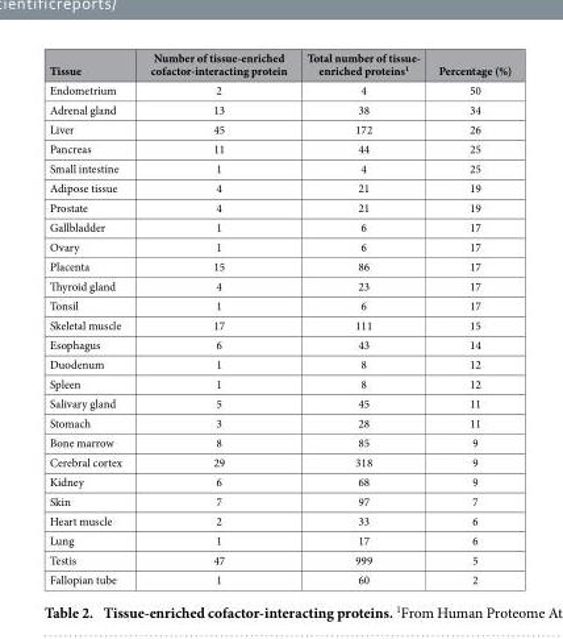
<table><thead><tr><td>Tissue</td><td>Number of tissue-enriched cofactor-interacting protein</td><td>Total number of tissue- enriched proteins<sup>1</sup></td><td>Percentage (%)</td></tr></thead><tbody><tr><td>Endometrium</td><td>2</td><td>4</td><td>50</td></tr><tr><td>Adrenal gland</td><td>13</td><td>38</td><td>34</td></tr><tr><td>Liver</td><td>45</td><td>172</td><td>26</td></tr><tr><td>Pancreas</td><td>11</td><td>44</td><td>25</td></tr><tr><td>Small intestine</td><td>1</td><td>4</td><td>25</td></tr><tr><td>Adipose tissue</td><td>4</td><td>21</td><td>19</td></tr><tr><td>Prostate</td><td>4</td><td>21</td><td>19</td></tr><tr><td>Gallbladder</td><td>1</td><td>6</td><td>17</td></tr><tr><td>Ovary</td><td>1</td><td>6</td><td>17</td></tr><tr><td>Placenta</td><td>15</td><td>86</td><td>17</td></tr><tr><td>Thyroid gland</td><td>4</td><td>23</td><td>17</td></tr><tr><td>Tonsil</td><td>1</td><td>6</td><td>17</td></tr><tr><td>Skeletal muscle</td><td>17</td><td>111</td><td>15</td></tr><tr><td>Esophagus</td><td>6</td><td>43</td><td>14</td></tr><tr><td>Duodenum</td><td>1</td><td>8</td><td>12</td></tr><tr><td>Spleen</td><td>1</td><td>8</td><td>12</td></tr><tr><td>Salivary gland</td><td>5</td><td>45</td><td>11</td></tr><tr><td>Stomach</td><td>3</td><td>28</td><td>11</td></tr><tr><td>Bone marrow</td><td>8</td><td>85</td><td>9</td></tr><tr><td>Cerebral cortex</td><td>29</td><td>318</td><td>9</td></tr><tr><td>Kidney</td><td>6</td><td>68</td><td>9</td></tr><tr><td>Skin</td><td>7</td><td>97</td><td>7</td></tr><tr><td>Heart muscle</td><td>2</td><td>33</td><td>6</td></tr><tr><td>Lung</td><td>1</td><td>17</td><td>6</td></tr><tr><td>Testis</td><td>47</td><td>999</td><td>5</td></tr><tr><td>Fallopian tube</td><td>1</td><td>60</td><td>2</td></tr></tbody></table>